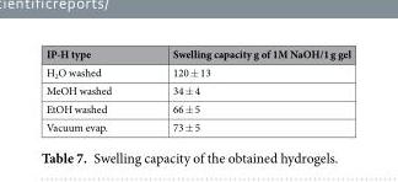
<table><thead><tr><td>IP-H type</td><td>Swelling capacity g of 1M NaOH/1 g gel</td></tr></thead><tbody><tr><td>H<sub>2</sub>O washed</td><td>120 ± 13</td></tr><tr><td>MeOH washed</td><td>34 ± 4</td></tr><tr><td>EtOH washed</td><td>66 ± 5</td></tr><tr><td>Vacuum evap.</td><td>73 ± 5</td></tr></tbody></table>